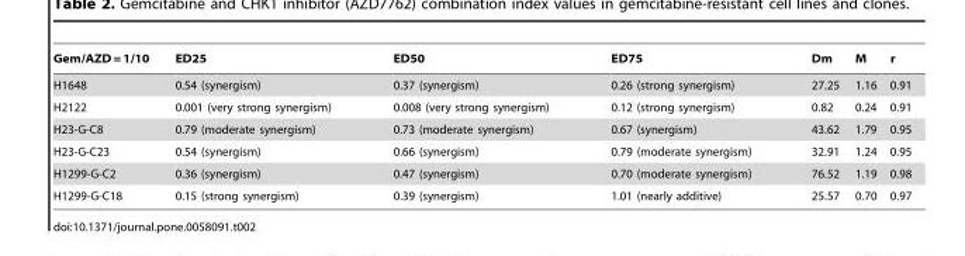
<table><thead><tr><td>Gem/AZD = 1/10</td><td>ED25</td><td>ED50</td><td>ED75</td><td>Dm</td><td>M</td><td>r</td></tr></thead><tbody><tr><td>H1648</td><td>0.54 (synergism)</td><td>0.37 (synergism)</td><td>0.26 (strong synergism)</td><td>27.25</td><td>1.16</td><td>0.91</td></tr><tr><td>H2122</td><td>0.001 (very strong synergism)</td><td>0.008 (very strong synergism)</td><td>0.12 (strong synergism)</td><td>0.82</td><td>0.24</td><td>0.91</td></tr><tr><td>H23-G-C8</td><td>0.79 (moderate synergism)</td><td>0.73 (moderate synergism)</td><td>0.67 (synergism)</td><td>43.62</td><td>1.79</td><td>0.95</td></tr><tr><td>H23-G-C23</td><td>0.54 (synergism)</td><td>0.66 (synergism)</td><td>0.79 (moderate synergism)</td><td>32.91</td><td>1.24</td><td>0.95</td></tr><tr><td>H1299-G-C2</td><td>0.36 (synergism)</td><td>0.47 (synergism)</td><td>0.70 (moderate synergism)</td><td>76.52</td><td>1.19</td><td>0.98</td></tr><tr><td>H1299-G-C18</td><td>0.15 (strong synergism)</td><td>0.39 (synergism)</td><td>1.01 (nearly additive)</td><td>25.57</td><td>0.70</td><td>0.97</td></tr></tbody></table>